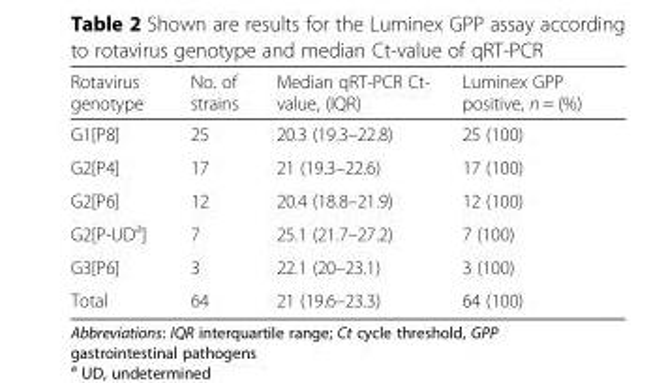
<table><thead><tr><td>Rotavirus genotype</td><td>No. of strains</td><td>Median qRT-PCR Ct- value, (IQR)</td><td>Luminex GPP positive, n = (%)</td></tr></thead><tbody><tr><td>G1[P8]</td><td>25</td><td>20.3 (19.3–22.8)</td><td>25 (100)</td></tr><tr><td>G2[P4]</td><td>17</td><td>21 (19.3–22.6)</td><td>17 (100)</td></tr><tr><td>G2[P6]</td><td>12</td><td>20.4 (18.8–21.9)</td><td>12 (100)</td></tr><tr><td>G2[P-UD<sup>a</sup>]</td><td>7</td><td>25.1 (21.7–27.2)</td><td>7 (100)</td></tr><tr><td>G3[P6]</td><td>3</td><td>22.1 (20–23.1)</td><td>3 (100)</td></tr><tr><td>Total</td><td>64</td><td>21 (19.6–23.3)</td><td>64 (100)</td></tr></tbody></table>